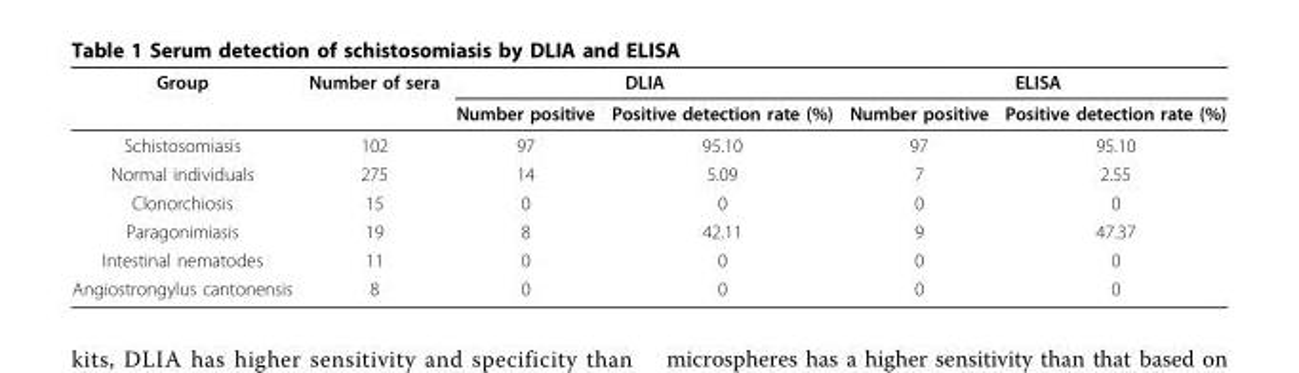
<table><thead><tr><td rowspan="2">Group</td><td rowspan="2">Number of sera</td><td colspan="2">DLIA</td><td colspan="2">ELISA</td></tr><tr><td>Number positive</td><td>Positive detection rate (%)</td><td>Number positive</td><td>Positive detection rate (%)</td></tr></thead><tbody><tr><td>Schistosomiasis</td><td>102</td><td>97</td><td>95.10</td><td>97</td><td>95.10</td></tr><tr><td>Normal individuals</td><td>275</td><td>14</td><td>5.09</td><td>7</td><td>2.55</td></tr><tr><td>Clonorchiosis</td><td>15</td><td>0</td><td>0</td><td>0</td><td>0</td></tr><tr><td>Paragonimiasis</td><td>19</td><td>8</td><td>42.11</td><td>9</td><td>47.37</td></tr><tr><td>Intestinal nematodes</td><td>11</td><td>0</td><td>0</td><td>0</td><td>0</td></tr><tr><td>Angiostrongylus cantonensis</td><td>8</td><td>0</td><td>0</td><td>0</td><td>0</td></tr></tbody></table>